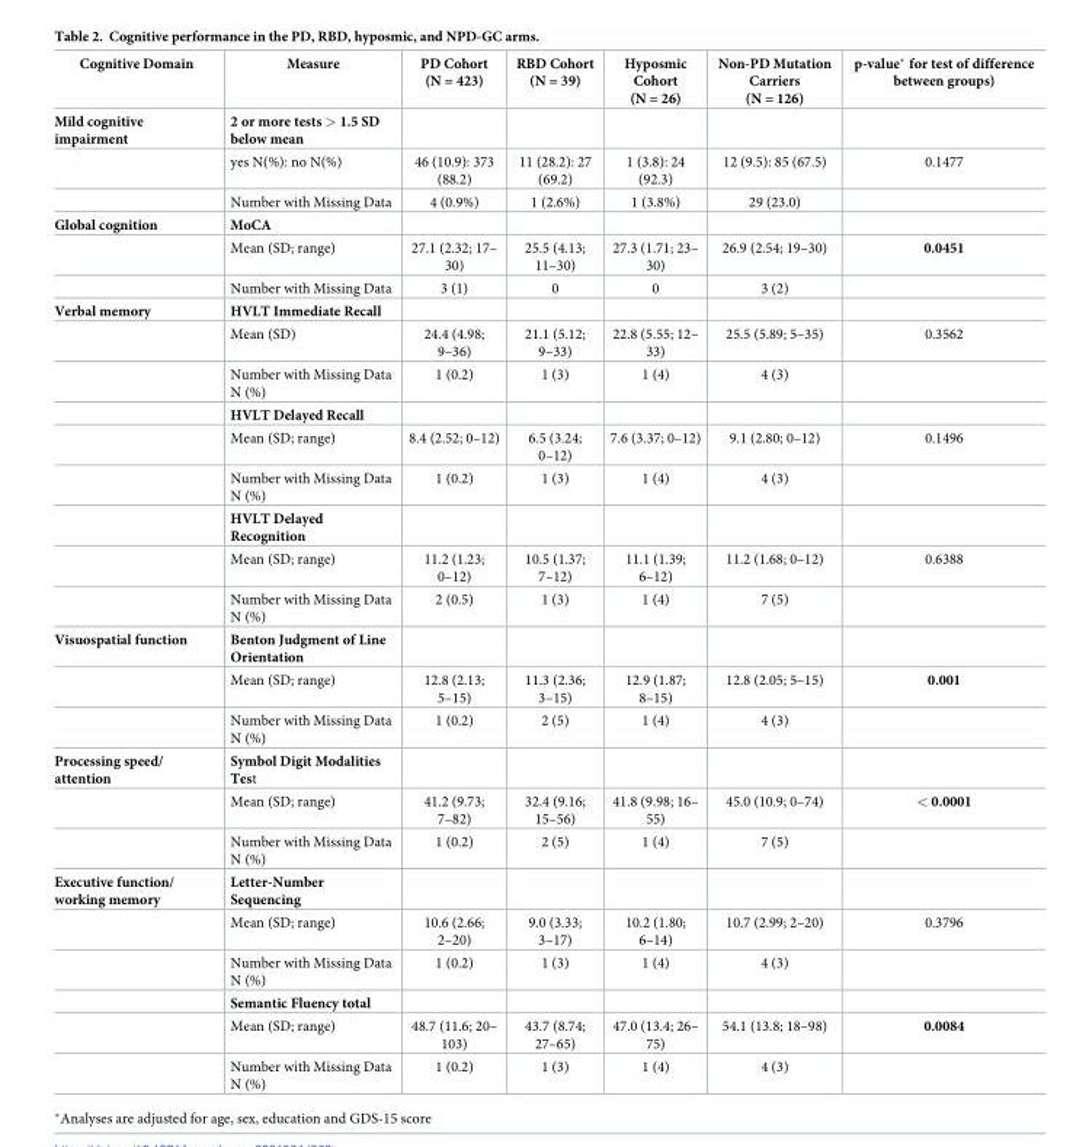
<table><thead><tr><td>Cognitive Domain</td><td>Measure</td><td>PD Cohort (N = 423)</td><td>RBD Cohort (N = 39)</td><td>Hyposmic Cohort (N = 26)</td><td>Non-PD Mutation Carriers (N = 126)</td><td>p-value* for test of difference between groups)</td></tr></thead><tbody><tr><td rowspan="3">Mild cognitive impairment</td><td>2 or more tests &gt; 1.5 SD below mean</td><td></td><td></td><td></td><td></td><td></td></tr><tr><td>yes N(%): no N(%)</td><td>46 (10.9): 373 (88.2)</td><td>11 (28.2): 27 (69.2)</td><td>1 (3.8): 24 (92.3)</td><td>12 (9.5): 85 (67.5)</td><td>0.1477</td></tr><tr><td>Number with Missing Data</td><td>4 (0.9%)</td><td>1 (2.6%)</td><td>1 (3.8%)</td><td>29 (23.0)</td><td></td></tr><tr><td rowspan="3">Global cognition</td><td>MoCA</td><td></td><td></td><td></td><td></td><td></td></tr><tr><td>Mean (SD; range)</td><td>27.1 (2.32; 17– 30)</td><td>25.5 (4.13; 11–30)</td><td>27.3 (1.71; 23– 30)</td><td>26.9 (2.54; 19–30)</td><td>0.0451</td></tr><tr><td>Number with Missing Data</td><td>3 (1)</td><td>0</td><td>0</td><td>3 (2)</td><td></td></tr><tr><td rowspan="9">Verbal memory</td><td>HVLT Immediate Recall</td><td></td><td></td><td></td><td></td><td></td></tr><tr><td>Mean (SD)</td><td>24.4 (4.98; 9–36)</td><td>21.1 (5.12; 9–33)</td><td>22.8 (5.55; 12– 33)</td><td>25.5 (5.89; 5–35)</td><td>0.3562</td></tr><tr><td>Number with Missing Data N (%)</td><td>1 (0.2)</td><td>1 (3)</td><td>1 (4)</td><td>4 (3)</td><td></td></tr><tr><td>HVLT Delayed Recall</td><td></td><td></td><td></td><td></td><td></td></tr><tr><td>Mean (SD; range)</td><td>8.4 (2.52; 0–12)</td><td>6.5 (3.24; 0–12)</td><td>7.6 (3.37; 0–12)</td><td>9.1 (2.80; 0–12)</td><td>0.1496</td></tr><tr><td>Number with Missing Data N (%)</td><td>1 (0.2)</td><td>1 (3)</td><td>1 (4)</td><td>4 (3)</td><td></td></tr><tr><td>HVLT Delayed Recognition</td><td></td><td></td><td></td><td></td><td></td></tr><tr><td>Mean (SD; range)</td><td>11.2 (1.23; 0–12)</td><td>10.5 (1.37; 7–12)</td><td>11.1 (1.39; 6–12)</td><td>11.2 (1.68; 0–12)</td><td>0.6388</td></tr><tr><td>Number with Missing Data N (%)</td><td>2 (0.5)</td><td>1 (3)</td><td>1 (4)</td><td>7 (5)</td><td></td></tr><tr><td rowspan="3">Visuospatial function</td><td>Benton Judgment of Line Orientation</td><td></td><td></td><td></td><td></td><td></td></tr><tr><td>Mean (SD; range)</td><td>12.8 (2.13; 5–15)</td><td>11.3 (2.36; 3–15)</td><td>12.9 (1.87; 8–15)</td><td>12.8 (2.05; 5–15)</td><td>0.001</td></tr><tr><td>Number with Missing Data N (%)</td><td>1 (0.2)</td><td>2 (5)</td><td>1 (4)</td><td>4 (3)</td><td></td></tr><tr><td rowspan="3">Processing speed/ attention</td><td>Symbol Digit Modalities Test</td><td></td><td></td><td></td><td></td><td></td></tr><tr><td>Mean (SD; range)</td><td>41.2 (9.73; 7–82)</td><td>32.4 (9.16; 15–56)</td><td>41.8 (9.98; 16– 55)</td><td>45.0 (10.9; 0–74)</td><td>&lt; 0.0001</td></tr><tr><td>Number with Missing Data N (%)</td><td>1 (0.2)</td><td>2 (5)</td><td>1 (4)</td><td>7 (5)</td><td></td></tr><tr><td rowspan="6">Executive function/ working memory</td><td>Letter-Number Sequencing</td><td></td><td></td><td></td><td></td><td></td></tr><tr><td>Mean (SD; range)</td><td>10.6 (2.66; 2–20)</td><td>9.0 (3.33; 3–17)</td><td>10.2 (1.80; 6–14)</td><td>10.7 (2.99; 2–20)</td><td>0.3796</td></tr><tr><td>Number with Missing Data N (%)</td><td>1 (0.2)</td><td>1 (3)</td><td>1 (4)</td><td>4 (3)</td><td></td></tr><tr><td>Semantic Fluency total</td><td></td><td></td><td></td><td></td><td></td></tr><tr><td>Mean (SD; range)</td><td>48.7 (11.6; 20– 103)</td><td>43.7 (8.74; 27–65)</td><td>47.0 (13.4; 26– 75)</td><td>54.1 (13.8; 18–98)</td><td>0.0084</td></tr><tr><td>Number with Missing Data N (%)</td><td>1 (0.2)</td><td>1 (3)</td><td>1 (4)</td><td>4 (3)</td><td></td></tr></tbody></table>